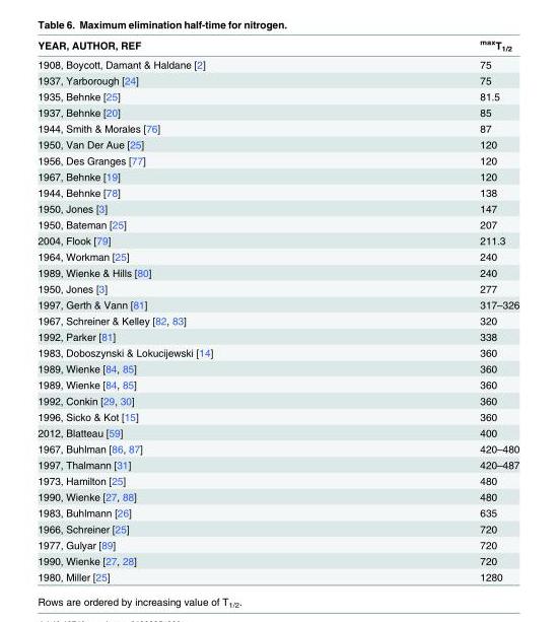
<table><thead><tr><td>YEAR, AUTHOR, REF</td><td><sup>max</sup>T<sub>1/2</sub></td></tr></thead><tbody><tr><td>1908, Boycott, Damant &amp; Haldane [2]</td><td>75</td></tr><tr><td>1937, Yarborough [24]</td><td>75</td></tr><tr><td>1935, Behnke [25]</td><td>81.5</td></tr><tr><td>1937, Behnke [20]</td><td>85</td></tr><tr><td>1944, Smith &amp; Morales [76]</td><td>87</td></tr><tr><td>1950, Van Der Aue [25]</td><td>120</td></tr><tr><td>1956, Des Granges [77]</td><td>120</td></tr><tr><td>1967, Behnke [19]</td><td>120</td></tr><tr><td>1944, Behnke [78]</td><td>138</td></tr><tr><td>1950, Jones [3]</td><td>147</td></tr><tr><td>1950, Bateman [25]</td><td>207</td></tr><tr><td>2004, Flook [79]</td><td>211.3</td></tr><tr><td>1964, Workman [25]</td><td>240</td></tr><tr><td>1989, Wienke &amp; Hills [80]</td><td>240</td></tr><tr><td>1950, Jones [3]</td><td>277</td></tr><tr><td>1997, Gerth &amp; Vann [81]</td><td>317–326</td></tr><tr><td>1967, Schreiner &amp; Kelley [82, 83]</td><td>320</td></tr><tr><td>1992, Parker [81]</td><td>338</td></tr><tr><td>1983, Doboszynski &amp; Lokucijewski [14]</td><td>360</td></tr><tr><td>1989, Wienke [84, 85]</td><td>360</td></tr><tr><td>1989, Wienke [84, 85]</td><td>360</td></tr><tr><td>1992, Conkin [29, 30]</td><td>360</td></tr><tr><td>1996, Sicko &amp; Kot [15]</td><td>360</td></tr><tr><td>2012, Blatteau [59]</td><td>400</td></tr><tr><td>1967, Buhlman [86, 87]</td><td>420–480</td></tr><tr><td>1997, Thalmann [31]</td><td>420–487</td></tr><tr><td>1973, Hamilton [25]</td><td>480</td></tr><tr><td>1990, Wienke [27, 88]</td><td>480</td></tr><tr><td>1983, Buhlmann [26]</td><td>635</td></tr><tr><td>1966, Schreiner [25]</td><td>720</td></tr><tr><td>1977, Gulyar [89]</td><td>720</td></tr><tr><td>1990, Wienke [27, 28]</td><td>720</td></tr><tr><td>1980, Miller [25]</td><td>1280</td></tr></tbody></table>